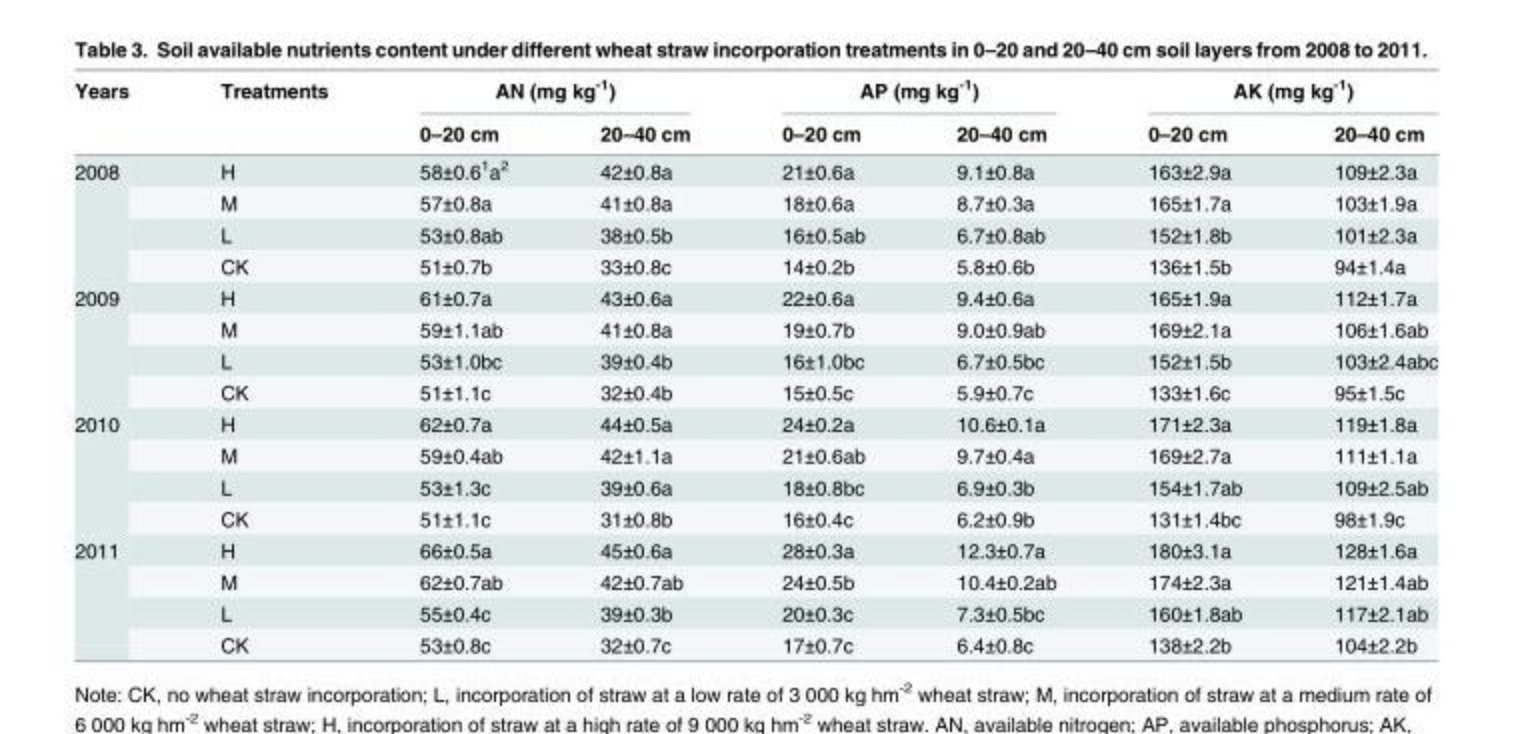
<table><thead><tr><td rowspan="2">Years</td><td rowspan="2">Treatments</td><td colspan="2">AN (mg kg<sup>-1</sup>)</td><td colspan="2">AP (mg kg<sup>-1</sup>)</td><td colspan="2">AK (mg kg<sup>-1</sup>)</td></tr><tr><td>0–20 cm</td><td>20–40 cm</td><td>0–20 cm</td><td>20–40 cm</td><td>0–20 cm</td><td>20–40 cm</td></tr></thead><tbody><tr><td rowspan="4">2008</td><td>H</td><td>58±0.6<sup>1</sup>a<sup>2</sup></td><td>42±0.8a</td><td>21±0.6a</td><td>9.1±0.8a</td><td>163±2.9a</td><td>109±2.3a</td></tr><tr><td>M</td><td>57±0.8a</td><td>41±0.8a</td><td>18±0.6a</td><td>8.7±0.3a</td><td>165±1.7a</td><td>103±1.9a</td></tr><tr><td>L</td><td>53±0.8ab</td><td>38±0.5b</td><td>16±0.5ab</td><td>6.7±0.8ab</td><td>152±1.8b</td><td>101±2.3a</td></tr><tr><td>CK</td><td>51±0.7b</td><td>33±0.8c</td><td>14±0.2b</td><td>5.8±0.6b</td><td>136±1.5b</td><td>94±1.4a</td></tr><tr><td rowspan="4">2009</td><td>H</td><td>61±0.7a</td><td>43±0.6a</td><td>22±0.6a</td><td>9.4±0.6a</td><td>165±1.9a</td><td>112±1.7a</td></tr><tr><td>M</td><td>59±1.1ab</td><td>41±0.8a</td><td>19±0.7b</td><td>9.0±0.9ab</td><td>169±2.1a</td><td>106±1.6ab</td></tr><tr><td>L</td><td>53±1.0bc</td><td>39±0.4b</td><td>16±1.0bc</td><td>6.7±0.5bc</td><td>152±1.5b</td><td>103±2.4abc</td></tr><tr><td>CK</td><td>51±1.1c</td><td>32±0.4b</td><td>15±0.5c</td><td>5.9±0.7c</td><td>133±1.6c</td><td>95±1.5c</td></tr><tr><td rowspan="4">2010</td><td>H</td><td>62±0.7a</td><td>44±0.5a</td><td>24±0.2a</td><td>10.6±0.1a</td><td>171±2.3a</td><td>119±1.8a</td></tr><tr><td>M</td><td>59±0.4ab</td><td>42±1.1a</td><td>21±0.6ab</td><td>9.7±0.4a</td><td>169±2.7a</td><td>111±1.1a</td></tr><tr><td>L</td><td>53±1.3c</td><td>39±0.6a</td><td>18±0.8bc</td><td>6.9±0.3b</td><td>154±1.7ab</td><td>109±2.5ab</td></tr><tr><td>CK</td><td>51±1.1c</td><td>31±0.8b</td><td>16±0.4c</td><td>6.2±0.9b</td><td>131±1.4bc</td><td>98±1.9c</td></tr><tr><td rowspan="4">2011</td><td>H</td><td>66±0.5a</td><td>45±0.6a</td><td>28±0.3a</td><td>12.3±0.7a</td><td>180±3.1a</td><td>128±1.6a</td></tr><tr><td>M</td><td>62±0.7ab</td><td>42±0.7ab</td><td>24±0.5b</td><td>10.4±0.2ab</td><td>174±2.3a</td><td>121±1.4ab</td></tr><tr><td>L</td><td>55±0.4c</td><td>39±0.3b</td><td>20±0.3c</td><td>7.3±0.5bc</td><td>160±1.8ab</td><td>117±2.1ab</td></tr><tr><td>CK</td><td>53±0.8c</td><td>32±0.7c</td><td>17±0.7c</td><td>6.4±0.8c</td><td>138±2.2b</td><td>104±2.2b</td></tr></tbody></table>